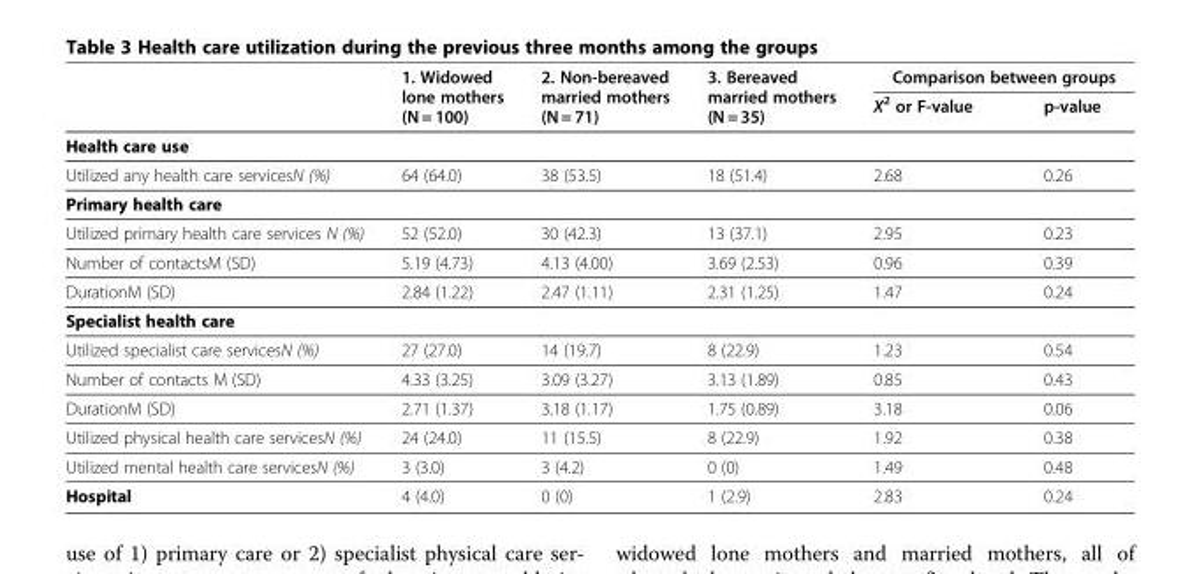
<table><thead><tr><td rowspan="2"></td><td rowspan="2">1. Widowed lone mothers (N = 100)</td><td rowspan="2">2. Non-bereaved married mothers (N = 71)</td><td rowspan="2">3. Bereaved married mothers (N = 35)</td><td colspan="2">Comparison between groups</td></tr><tr><td>X<sup>2</sup> or F-value</td><td>p-value</td></tr></thead><tbody><tr><td colspan="6">Health care use</td></tr><tr><td>Utilized any health care servicesN (%)</td><td>64 (64.0)</td><td>38 (53.5)</td><td>18 (51.4)</td><td>2.68</td><td>0.26</td></tr><tr><td colspan="6">Primary health care</td></tr><tr><td>Utilized primary health care services N (%)</td><td>52 (52.0)</td><td>30 (42.3)</td><td>13 (37.1)</td><td>2.95</td><td>0.23</td></tr><tr><td>Number of contactsM (SD)</td><td>5.19 (4.73)</td><td>4.13 (4.00)</td><td>3.69 (2.53)</td><td>0.96</td><td>0.39</td></tr><tr><td>DurationM (SD)</td><td>2.84 (1.22)</td><td>2.47 (1.11)</td><td>2.31 (1.25)</td><td>1.47</td><td>0.24</td></tr><tr><td colspan="6">Specialist health care</td></tr><tr><td>Utilized specialist care servicesN (%)</td><td>27 (27.0)</td><td>14 (19.7)</td><td>8 (22.9)</td><td>1.23</td><td>0.54</td></tr><tr><td>Number of contacts M (SD)</td><td>4.33 (3.25)</td><td>3.09 (3.27)</td><td>3.13 (1.89)</td><td>0.85</td><td>0.43</td></tr><tr><td>DurationM (SD)</td><td>2.71 (1.37)</td><td>3.18 (1.17)</td><td>1.75 (0.89)</td><td>3.18</td><td>0.06</td></tr><tr><td>Utilized physical health care servicesN (%)</td><td>24 (24.0)</td><td>11 (15.5)</td><td>8 (22.9)</td><td>1.92</td><td>0.38</td></tr><tr><td>Utilized mental health care servicesN (%)</td><td>3 (3.0)</td><td>3 (4.2)</td><td>0 (0)</td><td>1.49</td><td>0.48</td></tr><tr><td>Hospital</td><td>4 (4.0)</td><td>0 (0)</td><td>1 (2.9)</td><td>2.83</td><td>0.24</td></tr></tbody></table>